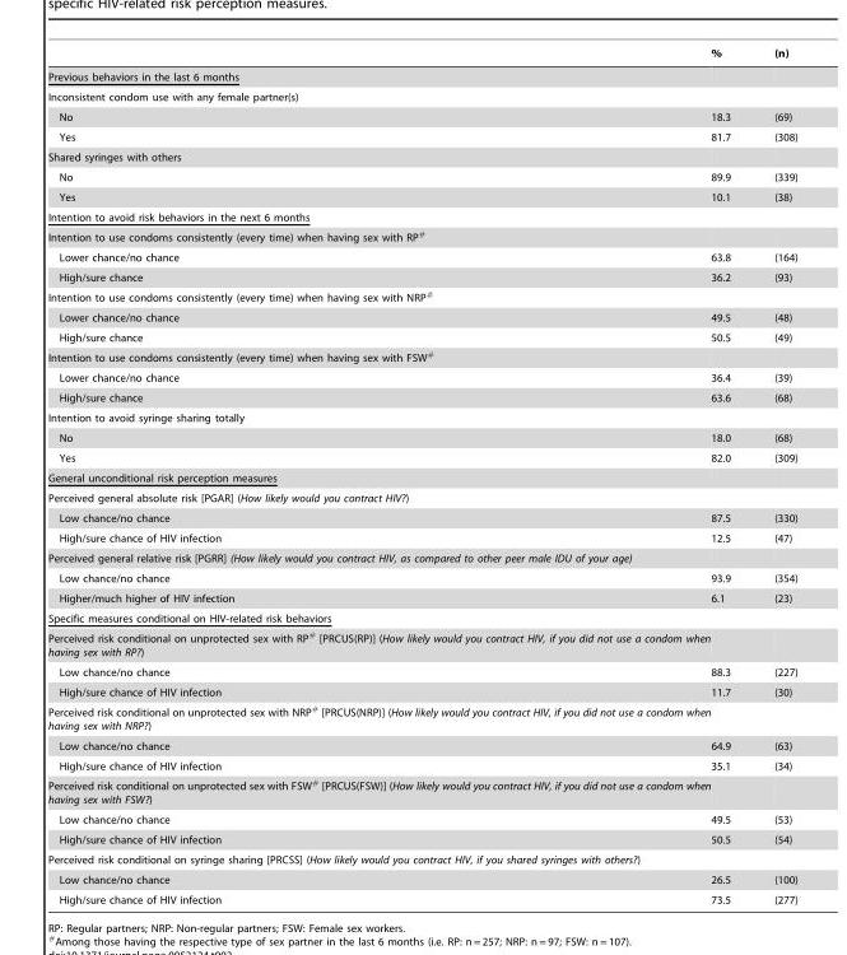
<table><thead><tr><td></td><td>%</td><td>(n)</td></tr></thead><tbody><tr><td colspan="3">Previous behaviors in the last 6 months</td></tr><tr><td colspan="3">Inconsistent condom use with any female partner(s)</td></tr><tr><td>No</td><td>18.3</td><td>(69)</td></tr><tr><td>Yes</td><td>81.7</td><td>(308)</td></tr><tr><td colspan="3">Shared syringes with others</td></tr><tr><td>No</td><td>89.9</td><td>(339)</td></tr><tr><td>Yes</td><td>10.1</td><td>(38)</td></tr><tr><td colspan="3">Intention to avoid risk behaviors in the next 6 months</td></tr><tr><td colspan="3">Intention to use condoms consistently (every time) when having sex with RP#</td></tr><tr><td>Lower chance/no chance</td><td>63.8</td><td>(164)</td></tr><tr><td>High/sure chance</td><td>36.2</td><td>(93)</td></tr><tr><td colspan="3">Intention to use condoms consistently (every time) when having sex with NRP#</td></tr><tr><td>Lower chance/no chance</td><td>49.5</td><td>(48)</td></tr><tr><td>High/sure chance</td><td>50.5</td><td>(49)</td></tr><tr><td colspan="3">Intention to use condoms consistently (every time) when having sex with FSW#</td></tr><tr><td>Lower chance/no chance</td><td>36.4</td><td>(39)</td></tr><tr><td>High/sure chance</td><td>63.6</td><td>(68)</td></tr><tr><td colspan="3">Intention to avoid syringe sharing totally</td></tr><tr><td>No</td><td>18.0</td><td>(68)</td></tr><tr><td>Yes</td><td>82.0</td><td>(309)</td></tr><tr><td colspan="3">General unconditional risk perception measures</td></tr><tr><td colspan="3">Perceived general absolute risk [PGAR] (How likely would you contract HIV?)</td></tr><tr><td>Low chance/no chance</td><td>87.5</td><td>(330)</td></tr><tr><td>High/sure chance of HIV infection</td><td>12.5</td><td>(47)</td></tr><tr><td colspan="3">Perceived general relative risk [PGRR] (How likely would you contract HIV, as compared to other peer male IDU of your age)</td></tr><tr><td>Low chance/no chance</td><td>93.9</td><td>(354)</td></tr><tr><td>Higher/much higher of HIV infection</td><td>6.1</td><td>(23)</td></tr><tr><td colspan="3">Specific measures conditional on HIV-related risk behaviors</td></tr><tr><td colspan="3">Perceived risk conditional on unprotected sex with RP# [PRCUS(RP)] (How likely would you contract HIV, if you did not use a condom when having sex with RP?)</td></tr><tr><td>Low chance/no chance</td><td>88.3</td><td>(227)</td></tr><tr><td>High/sure chance of HIV infection</td><td>11.7</td><td>(30)</td></tr><tr><td colspan="3">Perceived risk conditional on unprotected sex with NRP# [PRCUS(NRP)] (How likely would you contract HIV, if you did not use a condom when having sex with NRP?)</td></tr><tr><td>Low chance/no chance</td><td>64.9</td><td>(63)</td></tr><tr><td>High/sure chance of HIV infection</td><td>35.1</td><td>(34)</td></tr><tr><td colspan="3">Perceived risk conditional on unprotected sex with FSW# [PRCUS(FSW)] (How likely would you contract HIV, if you did not use a condom when having sex with FSW?)</td></tr><tr><td>Low chance/no chance</td><td>49.5</td><td>(53)</td></tr><tr><td>High/sure chance of HIV infection</td><td>50.5</td><td>(54)</td></tr><tr><td colspan="3">Perceived risk conditional on syringe sharing [PRCSS] (How likely would you contract HIV, if you shared syringes with others?)</td></tr><tr><td>Low chance/no chance</td><td>26.5</td><td>(100)</td></tr><tr><td>High/sure chance of HIV infection</td><td>73.5</td><td>(277)</td></tr></tbody></table>